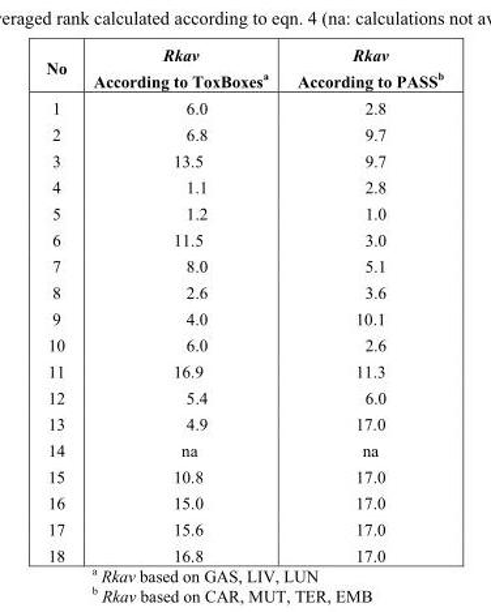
<table><thead><tr><td>No</td><td>Rkav According to ToxBoxes<sup>a</sup></td><td>Rkav According to PASS<sup>b</sup></td></tr></thead><tbody><tr><td>1</td><td>6.0</td><td>2.8</td></tr><tr><td>2</td><td>6.8</td><td>9.7</td></tr><tr><td>3</td><td>13.5</td><td>9.7</td></tr><tr><td>4</td><td>1.1</td><td>2.8</td></tr><tr><td>5</td><td>1.2</td><td>1.0</td></tr><tr><td>6</td><td>11.5</td><td>3.0</td></tr><tr><td>7</td><td>8.0</td><td>5.1</td></tr><tr><td>8</td><td>2.6</td><td>3.6</td></tr><tr><td>9</td><td>4.0</td><td>10.1</td></tr><tr><td>10</td><td>6.0</td><td>2.6</td></tr><tr><td>11</td><td>16.9</td><td>11.3</td></tr><tr><td>12</td><td>5.4</td><td>6.0</td></tr><tr><td>13</td><td>4.9</td><td>17.0</td></tr><tr><td>14</td><td>na</td><td>na</td></tr><tr><td>15</td><td>10.8</td><td>17.0</td></tr><tr><td>16</td><td>15.0</td><td>17.0</td></tr><tr><td>17</td><td>15.6</td><td>17.0</td></tr><tr><td>18</td><td>16.8</td><td>17.0</td></tr></tbody></table>